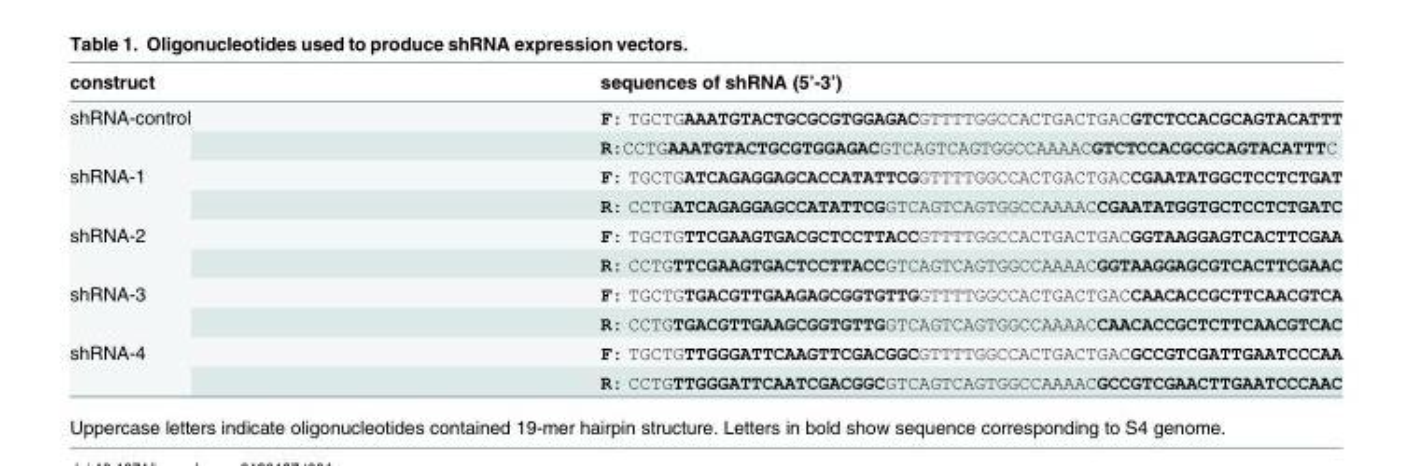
<table><thead><tr><td>construct</td><td>sequences of shRNA (5’-3’)</td></tr></thead><tbody><tr><td rowspan="2">shRNA-control</td><td>F: TGCTGAAATGTACTGCGCGTGGAGACGTTTTGGCCACTGACTGACGTCTCCACGCAGTACATTT</td></tr><tr><td>R:CCTGAAATGTACTGCGTGGAGACGTCAGTCAGTGGCCAAAACGTCTCCACGCGCAGTACATTTC</td></tr><tr><td rowspan="2">shRNA-1</td><td>F: TGCTGATCAGAGGAGCACCATATTCGGTTTTGGCCACTGACTGACCGAATATGGCTCCTCTGAT</td></tr><tr><td>R: CCTGATCAGAGGAGCCATATTCGGTCAGTCAGTGGCCAAAACCGAATATGGTGCTCCTCTGATC</td></tr><tr><td rowspan="2">shRNA-2</td><td>F: TGCTGTTCGAAGTGACGCTCCTTACCGTTTTGGCCACTGACTGACGGTAAGGAGTCACTTCGAA</td></tr><tr><td>R: CCTGTTCGAAGTGACTCCTTACCGTCAGTCAGTGGCCAAAACGGTAAGGAGCGTCACTTCGAAC</td></tr><tr><td rowspan="2">shRNA-3</td><td>F: TGCTGTGACGTTGAAGAGCGGTGTTGGTTTTGGCCACTGACTGACCAACACCGCTTCAACGTCA</td></tr><tr><td>R: CCTGTGACGTTGAAGCGGTGTTGGTCAGTCAGTGGCCAAAACCAACACCGCTCTTCAACGTCAC</td></tr><tr><td rowspan="2">shRNA-4</td><td>F: TGCTGTTGGGATTCAAGTTCGACGGCGTTTTGGCCACTGACTGACGCCGTCGATTGAATCCCAA</td></tr><tr><td>R: CCTGTTGGGATTCAATCGACGGCGTCAGTCAGTGGCCAAAACGCCGTCGAACTTGAATCCCAAC</td></tr></tbody></table>